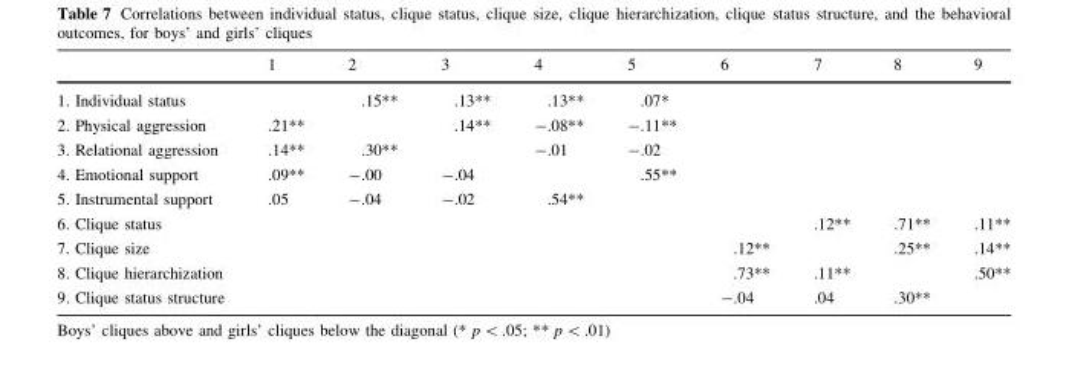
<table><thead><tr><td></td><td>1</td><td>2</td><td>3</td><td>4</td><td>5</td><td>6</td><td>7</td><td>8</td><td>9</td></tr></thead><tbody><tr><td>1. Individual status</td><td></td><td>.15**</td><td>.13**</td><td>.13**</td><td>.07*</td><td></td><td></td><td></td><td></td></tr><tr><td>2. Physical aggression</td><td>.21**</td><td></td><td>.14**</td><td>-.08**</td><td>-.11**</td><td></td><td></td><td></td><td></td></tr><tr><td>3. Relational aggression</td><td>.14**</td><td>.30**</td><td></td><td>-.01</td><td>-.02</td><td></td><td></td><td></td><td></td></tr><tr><td>4. Emotional support</td><td>.09**</td><td>-.00</td><td>-.04</td><td></td><td>.55**</td><td></td><td></td><td></td><td></td></tr><tr><td>5. Instrumental support</td><td>.05</td><td>-.04</td><td>-.02</td><td>.54**</td><td></td><td></td><td></td><td></td><td></td></tr><tr><td>6. Clique status</td><td></td><td></td><td></td><td></td><td></td><td></td><td>.12**</td><td>.71**</td><td>.11**</td></tr><tr><td>7. Clique size</td><td></td><td></td><td></td><td></td><td></td><td>.12**</td><td></td><td>.25**</td><td>.14**</td></tr><tr><td>8. Clique hierarchization</td><td></td><td></td><td></td><td></td><td></td><td>.73**</td><td>.11**</td><td></td><td>.50**</td></tr><tr><td>9. Clique status structure</td><td></td><td></td><td></td><td></td><td></td><td>-.04</td><td>.04</td><td>.30**</td><td></td></tr></tbody></table>